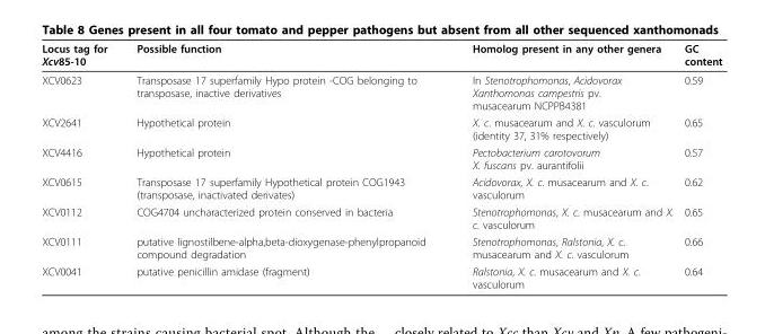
<table><thead><tr><td>Locus tag for Xcv85-10</td><td>Possible function</td><td>Homolog present in any other genera</td><td>GC content</td></tr></thead><tbody><tr><td>XCV0623</td><td>Transposase 17 superfamily Hypo protein -COG belonging to transposase, inactive derivatives</td><td>In Stenotrophomonas, Acidovorax Xanthomonas campestris pv. musacearum NCPPB4381</td><td>0.59</td></tr><tr><td>XCV2641</td><td>Hypothetical protein</td><td>X. c. musacearum and X. c. vasculorum (identity 37, 31% respectively)</td><td>0.65</td></tr><tr><td>XCV4416</td><td>Hypothetical protein</td><td>Pectobacterium carotovorum X. fuscans pv. aurantifolii</td><td>0.57</td></tr><tr><td>XCV0615</td><td>Transposase 17 superfamily Hypothetical protein COG1943 (transposase, inactivated derivates)</td><td>Acidovorax, X. c. musacearum and X. c. vasculorum</td><td>0.62</td></tr><tr><td>XCV0112</td><td>COG4704 uncharacterized protein conserved in bacteria</td><td>Stenotrophomonas, X. c. musacearum and X. c. vasculorum</td><td>0.65</td></tr><tr><td>XCV0111</td><td>putative lignostilbene-alpha,beta-dioxygenase-phenylpropanoid compound degradation</td><td>Stenotrophomonas, Ralstonia, X. c. musacearum and X. c. vasculorum</td><td>0.66</td></tr><tr><td>XCV0041</td><td>putative penicillin amidase (fragment)</td><td>Ralstonia, X. c. musacearum and X. c. vasculorum</td><td>0.64</td></tr></tbody></table>